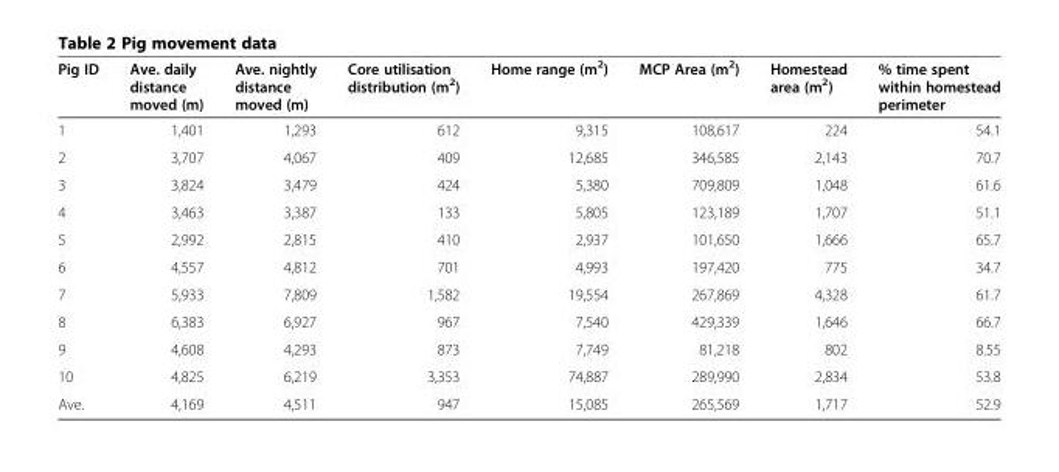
<table><thead><tr><td>Pig ID</td><td>Ave. daily distance moved (m)</td><td>Ave. nightly distance moved (m)</td><td>Core utilisation distribution (m<sup>2</sup>)</td><td>Home range (m<sup>2</sup>)</td><td>MCP Area (m<sup>2</sup>)</td><td>Homestead area (m<sup>2</sup>)</td><td>% time spent within homestead perimeter</td></tr></thead><tbody><tr><td>1</td><td>1,401</td><td>1,293</td><td>612</td><td>9,315</td><td>108,617</td><td>224</td><td>54.1</td></tr><tr><td>2</td><td>3,707</td><td>4,067</td><td>409</td><td>12,685</td><td>346,585</td><td>2,143</td><td>70.7</td></tr><tr><td>3</td><td>3,824</td><td>3,479</td><td>424</td><td>5,380</td><td>709,809</td><td>1,048</td><td>61.6</td></tr><tr><td>4</td><td>3,463</td><td>3,387</td><td>133</td><td>5,805</td><td>123,189</td><td>1,707</td><td>51.1</td></tr><tr><td>5</td><td>2,992</td><td>2,815</td><td>410</td><td>2,937</td><td>101,650</td><td>1,666</td><td>65.7</td></tr><tr><td>6</td><td>4,557</td><td>4,812</td><td>701</td><td>4,993</td><td>197,420</td><td>775</td><td>34.7</td></tr><tr><td>7</td><td>5,933</td><td>7,809</td><td>1,582</td><td>19,554</td><td>267,869</td><td>4,328</td><td>61.7</td></tr><tr><td>8</td><td>6,383</td><td>6,927</td><td>967</td><td>7,540</td><td>429,339</td><td>1,646</td><td>66.7</td></tr><tr><td>9</td><td>4,608</td><td>4,293</td><td>873</td><td>7,749</td><td>81,218</td><td>802</td><td>8.55</td></tr><tr><td>10</td><td>4,825</td><td>6,219</td><td>3,353</td><td>74,887</td><td>289,990</td><td>2,834</td><td>53.8</td></tr><tr><td>Ave.</td><td>4,169</td><td>4,511</td><td>947</td><td>15,085</td><td>265,569</td><td>1,717</td><td>52.9</td></tr></tbody></table>